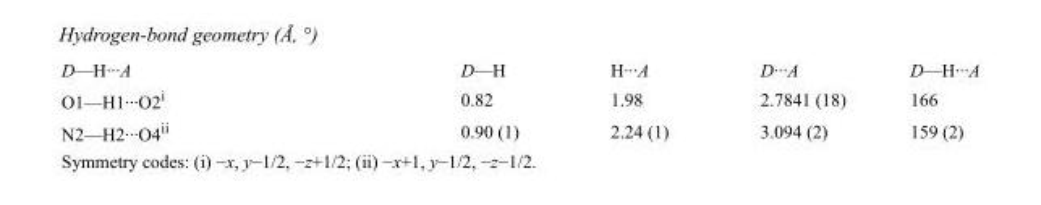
<table><tbody><tr><td>D—H···A</td><td>D—H</td><td>H···A</td><td>D···A</td><td>D—H···A</td></tr><tr><td>O1—H1···O2<sup>i</sup></td><td>0.82</td><td>1.98</td><td>2.7841 (18)</td><td>166</td></tr><tr><td>N2—H2···O4<sup>ii</sup></td><td>0.90 (1)</td><td>2.24 (1)</td><td>3.094 (2)</td><td>159 (2)</td></tr></tbody></table>